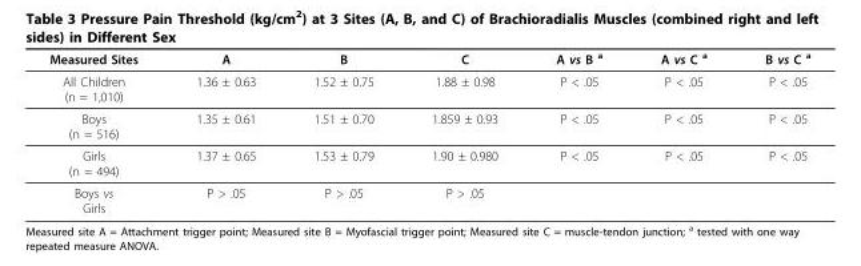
<table><thead><tr><td>Measured Sites</td><td>A</td><td>B</td><td>C</td><td>A vs B a</td><td>A vs C a</td><td>B vs C a</td></tr></thead><tbody><tr><td>All Children (n = 1,010)</td><td>1.36 ± 0.63</td><td>1.52 ± 0.75</td><td>1.88 ± 0.98</td><td>P &lt; .05</td><td>P &lt; .05</td><td>P &lt; .05</td></tr><tr><td>Boys (n = 516)</td><td>1.35 ± 0.61</td><td>1.51 ± 0.70</td><td>1.859 ± 0.93</td><td>P &lt; .05</td><td>P &lt; .05</td><td>P &lt; .05</td></tr><tr><td>Girls (n = 494)</td><td>1.37 ± 0.65</td><td>1.53 ± 0.79</td><td>1.90 ± 0.980</td><td>P &lt; .05</td><td>P &lt; .05</td><td>P &lt; .05</td></tr><tr><td>Boys vs Girls</td><td>P &gt; .05</td><td>P &gt; .05</td><td>P &gt; .05</td><td></td><td></td><td></td></tr></tbody></table>